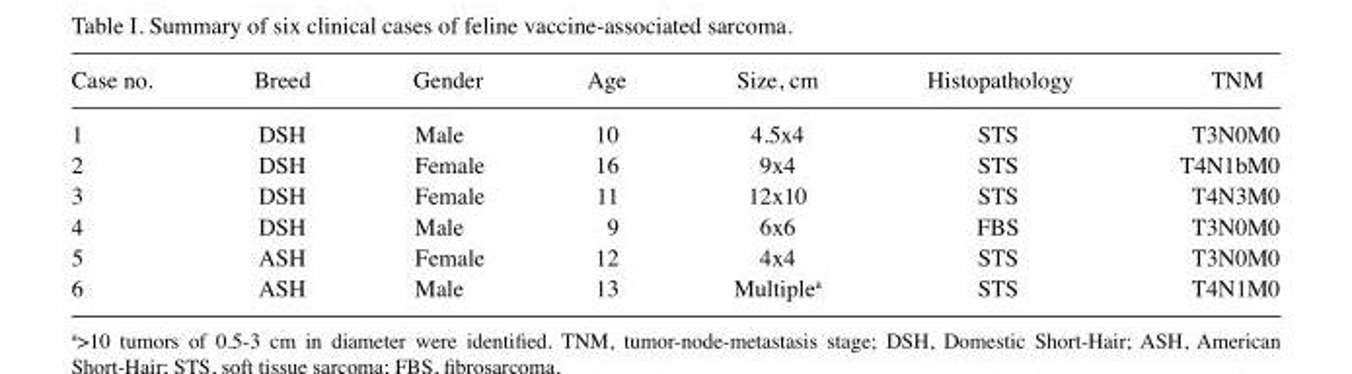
<table><thead><tr><td>Case no.</td><td>Breed</td><td>Gender</td><td>Age</td><td>Size, cm</td><td>Histopathology</td><td>TNM</td></tr></thead><tbody><tr><td>1</td><td>DSH</td><td>Male</td><td>10</td><td>4.5x4</td><td>STS</td><td>T3N0M0</td></tr><tr><td>2</td><td>DSH</td><td>Female</td><td>16</td><td>9x4</td><td>STS</td><td>T4N1bM0</td></tr><tr><td>3</td><td>DSH</td><td>Female</td><td>11</td><td>12x10</td><td>STS</td><td>T4N3M0</td></tr><tr><td>4</td><td>DSH</td><td>Male</td><td>9</td><td>6x6</td><td>FBS</td><td>T3N0M0</td></tr><tr><td>5</td><td>ASH</td><td>Female</td><td>12</td><td>4x4</td><td>STS</td><td>T3N0M0</td></tr><tr><td>6</td><td>ASH</td><td>Male</td><td>13</td><td>Multiple<sup>a</sup></td><td>STS</td><td>T4N1M0</td></tr></tbody></table>